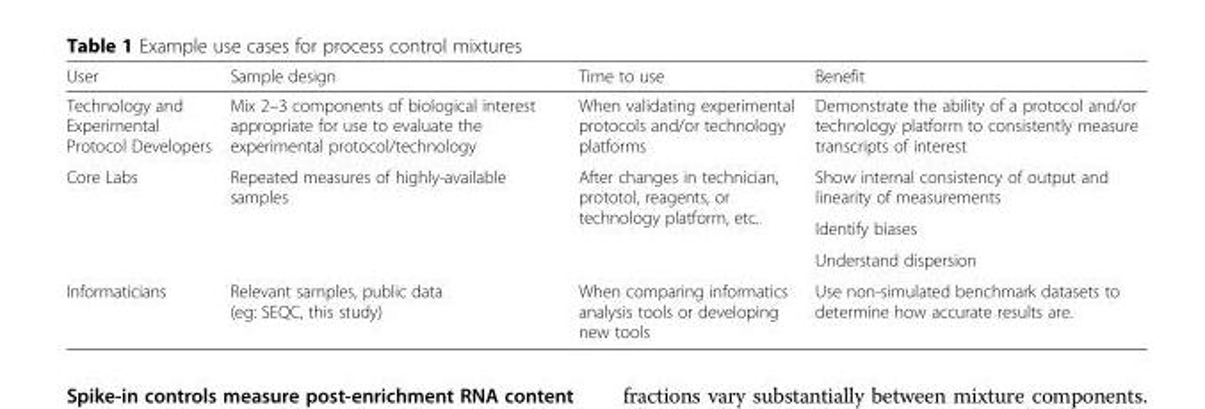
<table><thead><tr><td>User</td><td>Sample design</td><td>Time to use</td><td>Benefit</td></tr></thead><tbody><tr><td>Technology and Experimental Protocol Developers</td><td>Mix 2–3 components of biological interest appropriate for use to evaluate the experimental protocol/technology</td><td>When validating experimental protocols and/or technology platforms</td><td>Demonstrate the ability of a protocol and/or technology platform to consistently measure transcripts of interest</td></tr><tr><td rowspan="3">Core Labs</td><td rowspan="3">Repeated measures of highly-available samples</td><td rowspan="3">After changes in technician, prototol, reagents, or technology platform, etc.</td><td>Show internal consistency of output and linearity of measurements</td></tr><tr><td>Identify biases</td></tr><tr><td>Understand dispersion</td></tr><tr><td>Informaticians</td><td>Relevant samples, public data (eg: SEQC, this study)</td><td>When comparing informatics analysis tools or developing new tools</td><td>Use non-simulated benchmark datasets to determine how accurate results are.</td></tr></tbody></table>